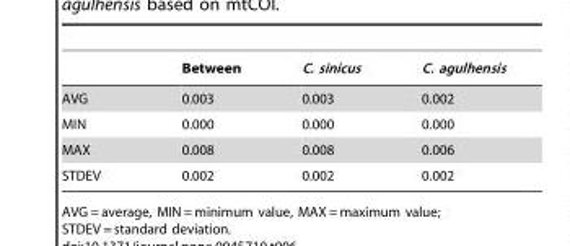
<table><thead><tr><td></td><td>Between</td><td>C. sinicus</td><td>C. agulhensis</td></tr></thead><tbody><tr><td>AVG</td><td>0.003</td><td>0.003</td><td>0.002</td></tr><tr><td>MIN</td><td>0.000</td><td>0.000</td><td>0.000</td></tr><tr><td>MAX</td><td>0.008</td><td>0.008</td><td>0.006</td></tr><tr><td>STDEV</td><td>0.002</td><td>0.002</td><td>0.002</td></tr></tbody></table>